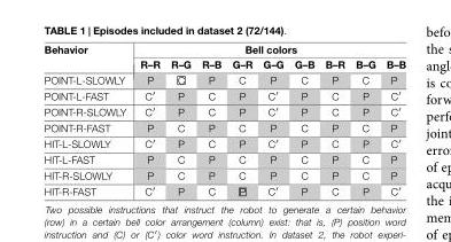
<table><thead><tr><td rowspan="2">Behavior</td><td colspan="9">Bell colors</td></tr><tr><td>R–R</td><td>R–G</td><td>R–B</td><td>G–R</td><td>G–G</td><td>G–B</td><td>B–R</td><td>B–G</td><td>B–B</td></tr></thead><tbody><tr><td>POINT-L-SLOWLY</td><td>P</td><td>C</td><td>P</td><td>C</td><td>P</td><td>C</td><td>P</td><td>C</td><td>P</td></tr><tr><td>POINT-L-FAST</td><td>C′</td><td>P</td><td>C</td><td>P</td><td>C′</td><td>P</td><td>C</td><td>P</td><td>C′</td></tr><tr><td>POINT-R-SLOWLY</td><td>C′</td><td>P</td><td>C</td><td>P</td><td>C′</td><td>P</td><td>C</td><td>P</td><td>C′</td></tr><tr><td>POINT-R-FAST</td><td>P</td><td>C</td><td>P</td><td>C</td><td>P</td><td>C</td><td>P</td><td>C</td><td>P</td></tr><tr><td>HIT-L-SLOWLY</td><td>C′</td><td>P</td><td>C</td><td>P</td><td>C′</td><td>P</td><td>C</td><td>P</td><td>C′</td></tr><tr><td>HIT-L-FAST</td><td>P</td><td>C</td><td>P</td><td>C</td><td>P</td><td>C</td><td>P</td><td>C</td><td>P</td></tr><tr><td>HIT-R-SLOWLY</td><td>P</td><td>C</td><td>P</td><td>C</td><td>P</td><td>C</td><td>P</td><td>C</td><td>P</td></tr><tr><td>HIT-R-FAST</td><td>C′</td><td>P</td><td>C</td><td>P</td><td>C′</td><td>P</td><td>C</td><td>P</td><td>C′</td></tr></tbody></table>